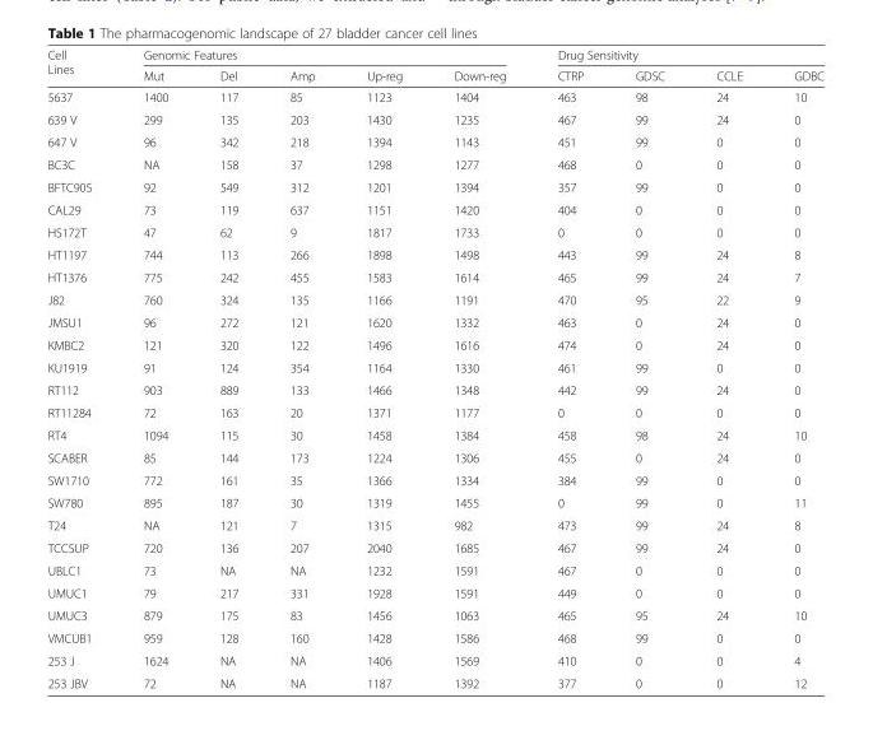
<table><thead><tr><td rowspan="2">Cell Lines</td><td colspan="5">Genomic Features</td><td colspan="4">Drug Sensitivity</td></tr><tr><td>Mut</td><td>Del</td><td>Amp</td><td>Up-reg</td><td>Down-reg</td><td>CTRP</td><td>GDSC</td><td>CCLE</td><td>GDBC</td></tr></thead><tbody><tr><td>5637</td><td>1400</td><td>117</td><td>85</td><td>1123</td><td>1404</td><td>463</td><td>98</td><td>24</td><td>10</td></tr><tr><td>639 V</td><td>299</td><td>135</td><td>203</td><td>1430</td><td>1235</td><td>467</td><td>99</td><td>24</td><td>0</td></tr><tr><td>647 V</td><td>96</td><td>342</td><td>218</td><td>1394</td><td>1143</td><td>451</td><td>99</td><td>0</td><td>0</td></tr><tr><td>BC3C</td><td>NA</td><td>158</td><td>37</td><td>1298</td><td>1277</td><td>468</td><td>0</td><td>0</td><td>0</td></tr><tr><td>BFTC905</td><td>92</td><td>549</td><td>312</td><td>1201</td><td>1394</td><td>357</td><td>99</td><td>0</td><td>0</td></tr><tr><td>CAL29</td><td>73</td><td>119</td><td>637</td><td>1151</td><td>1420</td><td>404</td><td>0</td><td>0</td><td>0</td></tr><tr><td>HS172T</td><td>47</td><td>62</td><td>9</td><td>1817</td><td>1733</td><td>0</td><td>0</td><td>0</td><td>0</td></tr><tr><td>HT1197</td><td>744</td><td>113</td><td>266</td><td>1898</td><td>1498</td><td>443</td><td>99</td><td>24</td><td>8</td></tr><tr><td>HT1376</td><td>775</td><td>242</td><td>455</td><td>1583</td><td>1614</td><td>465</td><td>99</td><td>24</td><td>7</td></tr><tr><td>J82</td><td>760</td><td>324</td><td>135</td><td>1166</td><td>1191</td><td>470</td><td>95</td><td>22</td><td>9</td></tr><tr><td>JMSU1</td><td>96</td><td>272</td><td>121</td><td>1620</td><td>1332</td><td>463</td><td>0</td><td>24</td><td>0</td></tr><tr><td>KMBC2</td><td>121</td><td>320</td><td>122</td><td>1496</td><td>1616</td><td>474</td><td>0</td><td>24</td><td>0</td></tr><tr><td>KU1919</td><td>91</td><td>124</td><td>354</td><td>1164</td><td>1330</td><td>461</td><td>99</td><td>0</td><td>0</td></tr><tr><td>RT112</td><td>903</td><td>889</td><td>133</td><td>1466</td><td>1348</td><td>442</td><td>99</td><td>24</td><td>0</td></tr><tr><td>RT11284</td><td>72</td><td>163</td><td>20</td><td>1371</td><td>1177</td><td>0</td><td>0</td><td>0</td><td>0</td></tr><tr><td>RT4</td><td>1094</td><td>115</td><td>30</td><td>1458</td><td>1384</td><td>458</td><td>98</td><td>24</td><td>10</td></tr><tr><td>SCABER</td><td>85</td><td>144</td><td>173</td><td>1224</td><td>1306</td><td>455</td><td>0</td><td>24</td><td>0</td></tr><tr><td>SW1710</td><td>772</td><td>161</td><td>35</td><td>1366</td><td>1334</td><td>384</td><td>99</td><td>0</td><td>0</td></tr><tr><td>SW780</td><td>895</td><td>187</td><td>30</td><td>1319</td><td>1455</td><td>0</td><td>99</td><td>0</td><td>11</td></tr><tr><td>T24</td><td>NA</td><td>121</td><td>7</td><td>1315</td><td>982</td><td>473</td><td>99</td><td>24</td><td>8</td></tr><tr><td>TCCSUP</td><td>720</td><td>136</td><td>207</td><td>2040</td><td>1685</td><td>467</td><td>99</td><td>24</td><td>0</td></tr><tr><td>UBLC1</td><td>73</td><td>NA</td><td>NA</td><td>1232</td><td>1591</td><td>467</td><td>0</td><td>0</td><td>0</td></tr><tr><td>UMUC1</td><td>79</td><td>217</td><td>331</td><td>1928</td><td>1591</td><td>449</td><td>0</td><td>0</td><td>0</td></tr><tr><td>UMUC3</td><td>879</td><td>175</td><td>83</td><td>1456</td><td>1063</td><td>465</td><td>95</td><td>24</td><td>10</td></tr><tr><td>VMCUB1</td><td>959</td><td>128</td><td>160</td><td>1428</td><td>1586</td><td>468</td><td>99</td><td>0</td><td>0</td></tr><tr><td>253 J</td><td>1624</td><td>NA</td><td>NA</td><td>1406</td><td>1569</td><td>410</td><td>0</td><td>0</td><td>4</td></tr><tr><td>253 JBV</td><td>72</td><td>NA</td><td>NA</td><td>1187</td><td>1392</td><td>377</td><td>0</td><td>0</td><td>12</td></tr></tbody></table>